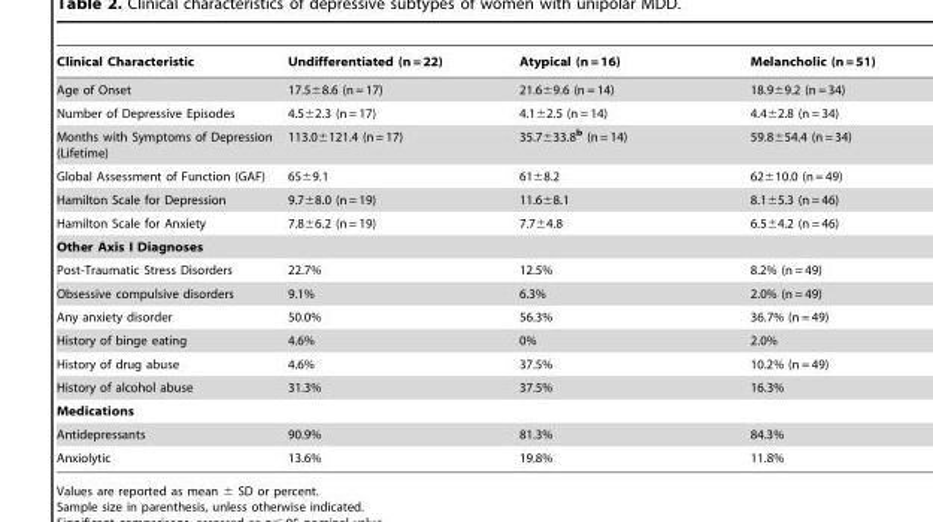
<table><thead><tr><td>Clinical Characteristic</td><td>Undifferentiated (n = 22)</td><td>Atypical (n = 16)</td><td>Melancholic (n = 51)</td></tr></thead><tbody><tr><td>Age of Onset</td><td>17.5±8.6 (n = 17)</td><td>21.6±9.6 (n = 14)</td><td>18.9±9.2 (n = 34)</td></tr><tr><td>Number of Depressive Episodes</td><td>4.5±2.3 (n = 17)</td><td>4.1±2.5 (n = 14)</td><td>4.4±2.8 (n = 34)</td></tr><tr><td>Months with Symptoms of Depression (Lifetime)</td><td>113.0±121.4 (n = 17)</td><td>35.7±33.8<sup>b</sup> (n = 14)</td><td>59.8±54.4 (n = 34)</td></tr><tr><td>Global Assessment of Function (GAF)</td><td>65±9.1</td><td>61±8.2</td><td>62±10.0 (n = 49)</td></tr><tr><td>Hamilton Scale for Depression</td><td>9.7±8.0 (n = 19)</td><td>11.6±8.1</td><td>8.1±5.3 (n = 46)</td></tr><tr><td>Hamilton Scale for Anxiety</td><td>7.8±6.2 (n = 19)</td><td>7.7±4.8</td><td>6.5±4.2 (n = 46)</td></tr><tr><td colspan="4">Other Axis I Diagnoses</td></tr><tr><td>Post-Traumatic Stress Disorders</td><td>22.7%</td><td>12.5%</td><td>8.2% (n = 49)</td></tr><tr><td>Obsessive compulsive disorders</td><td>9.1%</td><td>6.3%</td><td>2.0% (n = 49)</td></tr><tr><td>Any anxiety disorder</td><td>50.0%</td><td>56.3%</td><td>36.7% (n = 49)</td></tr><tr><td>History of binge eating</td><td>4.6%</td><td>0%</td><td>2.0%</td></tr><tr><td>History of drug abuse</td><td>4.6%</td><td>37.5%</td><td>10.2% (n = 49)</td></tr><tr><td>History of alcohol abuse</td><td>31.3%</td><td>37.5%</td><td>16.3%</td></tr><tr><td colspan="4">Medications</td></tr><tr><td>Antidepressants</td><td>90.9%</td><td>81.3%</td><td>84.3%</td></tr><tr><td>Anxiolytic</td><td>13.6%</td><td>19.8%</td><td>11.8%</td></tr></tbody></table>